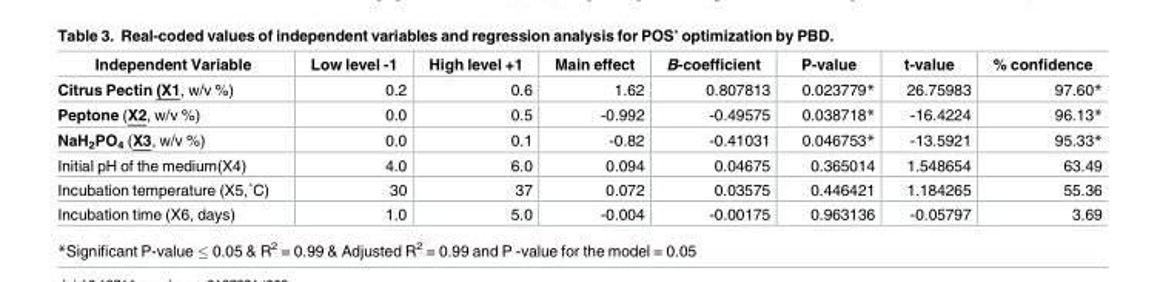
<table><thead><tr><td>Independent Variable</td><td>Low level -1</td><td>High level +1</td><td>Main effect</td><td>B-coefficient</td><td>P-value</td><td>t-value</td><td>% confidence</td></tr></thead><tbody><tr><td>Citrus Pectin (X1, w/v %)</td><td>0.2</td><td>0.6</td><td>1.62</td><td>0.807813</td><td>0.023779*</td><td>26.75983</td><td>97.60*</td></tr><tr><td>Peptone (X2, w/v %)</td><td>0.0</td><td>0.5</td><td>-0.992</td><td>-0.49575</td><td>0.038718*</td><td>-16.4224</td><td>96.13*</td></tr><tr><td>NaH<sub>2</sub>PO<sub>4</sub> (X3, w/v %)</td><td>0.0</td><td>0.1</td><td>-0.82</td><td>-0.41031</td><td>0.046753*</td><td>-13.5921</td><td>95.33*</td></tr><tr><td>Initial pH of the medium(X4)</td><td>4.0</td><td>6.0</td><td>0.094</td><td>0.04675</td><td>0.365014</td><td>1.548654</td><td>63.49</td></tr><tr><td>Incubation temperature (X5,˚C)</td><td>30</td><td>37</td><td>0.072</td><td>0.03575</td><td>0.446421</td><td>1.184265</td><td>55.36</td></tr><tr><td>Incubation time (X6, days)</td><td>1.0</td><td>5.0</td><td>-0.004</td><td>-0.00175</td><td>0.963136</td><td>-0.05797</td><td>3.69</td></tr></tbody></table>